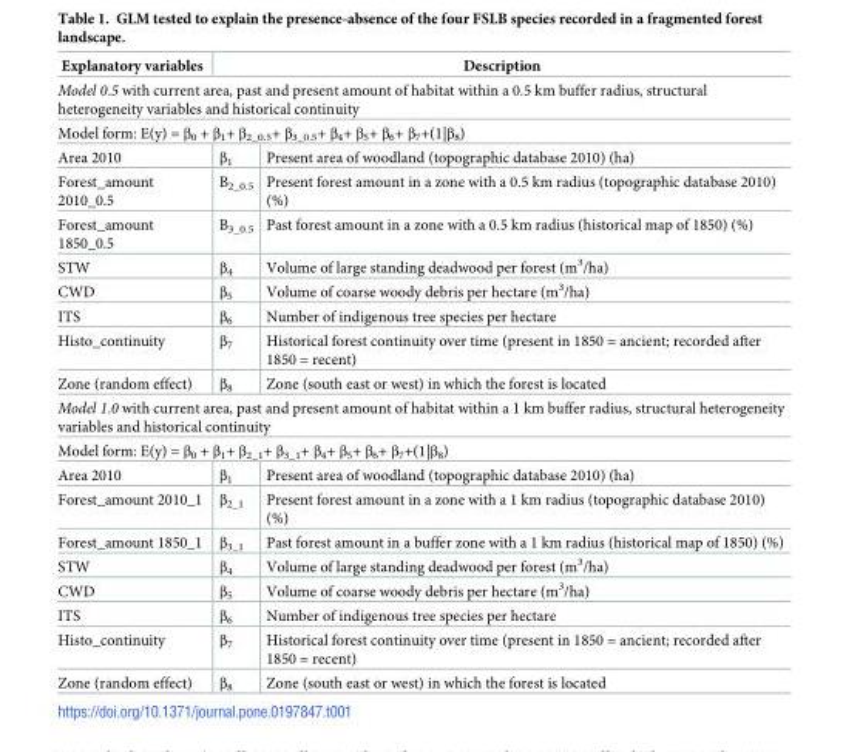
<table><thead><tr><td>Explanatory variables</td><td colspan="2">Description</td></tr><tr><td rowspan="2" colspan="3">Model 0.5 with current area, past and present amount of habitat within a 0.5 km buffer radius, structural heterogeneity variables and historical continuity Model form: E(y) = β<sub>0</sub> + β<sub>1</sub>+ β<sub>2_0.5</sub>+ β<sub>3_0.5</sub>+ β<sub>4</sub>+ β<sub>5</sub>+ β<sub>6</sub>+ β<sub>7</sub>+(1|β<sub>8</sub>)</td></tr><tr></tr><tr><td>Area 2010</td><td>β<sub>1</sub></td><td>Present area of woodland (topographic database 2010) (ha)</td></tr></thead><tbody><tr><td>Forest_amount 2010_0.5</td><td>B<sub>2_0.5</sub></td><td>Present forest amount in a zone with a 0.5 km radius (topographic database 2010) (%)</td></tr><tr><td>Forest_amount 1850_0.5</td><td>B<sub>3_0.5</sub></td><td>Past forest amount in a zone with a 0.5 km radius (historical map of 1850) (%)</td></tr><tr><td>STW</td><td>β<sub>4</sub></td><td>Volume of large standing deadwood per forest (m<sup>3</sup>/ha)</td></tr><tr><td>CWD</td><td>β<sub>5</sub></td><td>Volume of coarse woody debris per hectare (m<sup>3</sup>/ha)</td></tr><tr><td>ITS</td><td>β<sub>6</sub></td><td>Number of indigenous tree species per hectare</td></tr><tr><td>Histo_continuity</td><td>β<sub>7</sub></td><td>Historical forest continuity over time (present in 1850 = ancient; recorded after 1850 = recent)</td></tr><tr><td>Zone (random effect)</td><td>β<sub>8</sub></td><td>Zone (south east or west) in which the forest is located</td></tr><tr><td colspan="3">Model 1.0 with current area, past and present amount of habitat within a 1 km buffer radius, structural heterogeneity variables and historical continuity</td></tr><tr><td colspan="3">Model form: E(y) = β<sub>0</sub> + β<sub>1</sub>+ β<sub>2_1</sub>+ β<sub>3_1</sub>+ β<sub>4</sub>+ β<sub>5</sub>+ β<sub>6</sub>+ β<sub>7</sub>+(1|β<sub>8</sub>)</td></tr><tr><td>Area 2010</td><td>β<sub>1</sub></td><td>Present area of woodland (topographic database 2010) (ha)</td></tr><tr><td>Forest_amount 2010_1</td><td>β<sub>2_1</sub></td><td>Present forest amount in a zone with a 1 km radius (topographic database 2010) (%)</td></tr><tr><td>Forest_amount 1850_1</td><td>β<sub>3_1</sub></td><td>Past forest amount in a buffer zone with a 1 km radius (historical map of 1850) (%)</td></tr><tr><td>STW</td><td>β<sub>4</sub></td><td>Volume of large standing deadwood per forest (m<sup>3</sup>/ha)</td></tr><tr><td>CWD</td><td>β<sub>5</sub></td><td>Volume of coarse woody debris per hectare (m<sup>3</sup>/ha)</td></tr><tr><td>ITS</td><td>β<sub>6</sub></td><td>Number of indigenous tree species per hectare</td></tr><tr><td>Histo_continuity</td><td>β<sub>7</sub></td><td>Historical forest continuity over time (present in 1850 = ancient; recorded after 1850 = recent)</td></tr><tr><td>Zone (random effect)</td><td>β<sub>8</sub></td><td>Zone (south east or west) in which the forest is located</td></tr></tbody></table>